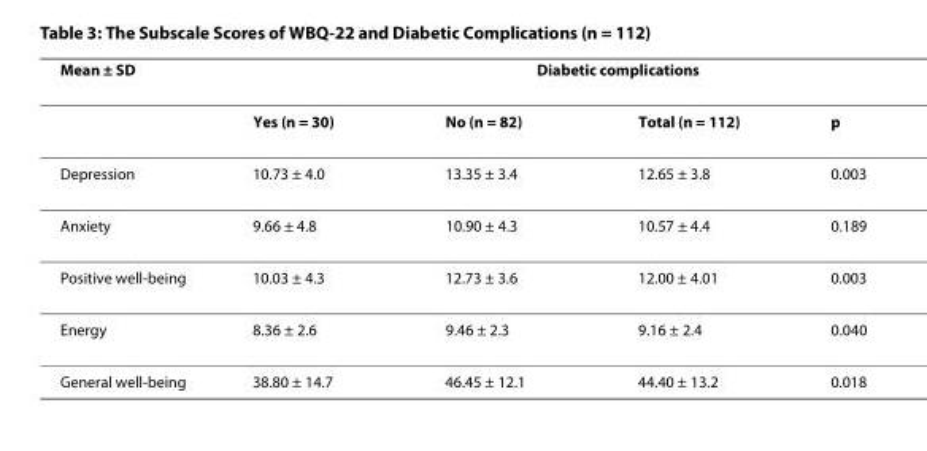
<table><thead><tr><td rowspan="2">Mean ± SD</td><td colspan="4">Diabetic complications</td></tr><tr><td>Yes (n = 30)</td><td>No (n = 82)</td><td>Total (n = 112)</td><td>p</td></tr></thead><tbody><tr><td>Depression</td><td>10.73 ± 4.0</td><td>13.35 ± 3.4</td><td>12.65 ± 3.8</td><td>0.003</td></tr><tr><td>Anxiety</td><td>9.66 ± 4.8</td><td>10.90 ± 4.3</td><td>10.57 ± 4.4</td><td>0.189</td></tr><tr><td>Positive well-being</td><td>10.03 ± 4.3</td><td>12.73 ± 3.6</td><td>12.00 ± 4.01</td><td>0.003</td></tr><tr><td>Energy</td><td>8.36 ± 2.6</td><td>9.46 ± 2.3</td><td>9.16 ± 2.4</td><td>0.040</td></tr><tr><td>General well-being</td><td>38.80 ± 14.7</td><td>46.45 ± 12.1</td><td>44.40 ± 13.2</td><td>0.018</td></tr></tbody></table>